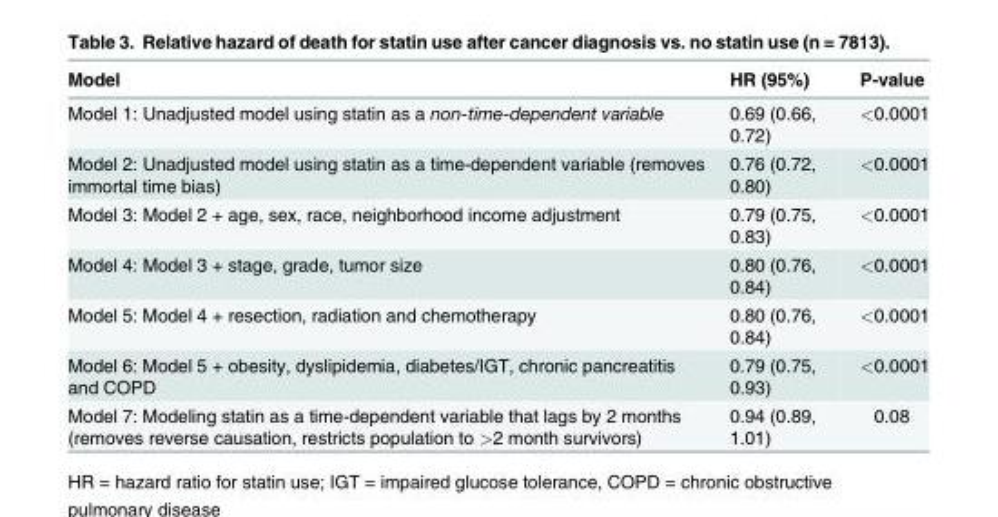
<table><thead><tr><td>Model</td><td>HR (95%)</td><td>P-value</td></tr></thead><tbody><tr><td>Model 1: Unadjusted model using statin as a non-time-dependent variable</td><td>0.69 (0.66, 0.72)</td><td>&lt;0.0001</td></tr><tr><td>Model 2: Unadjusted model using statin as a time-dependent variable (removes immortal time bias)</td><td>0.76 (0.72, 0.80)</td><td>&lt;0.0001</td></tr><tr><td>Model 3: Model 2 + age, sex, race, neighborhood income adjustment</td><td>0.79 (0.75, 0.83)</td><td>&lt;0.0001</td></tr><tr><td>Model 4: Model 3 + stage, grade, tumor size</td><td>0.80 (0.76, 0.84)</td><td>&lt;0.0001</td></tr><tr><td>Model 5: Model 4 + resection, radiation and chemotherapy</td><td>0.80 (0.76, 0.84)</td><td>&lt;0.0001</td></tr><tr><td>Model 6: Model 5 + obesity, dyslipidemia, diabetes/IGT, chronic pancreatitis and COPD</td><td>0.79 (0.75, 0.93)</td><td>&lt;0.0001</td></tr><tr><td>Model 7: Modeling statin as a time-dependent variable that lags by 2 months (removes reverse causation, restricts population to &gt;2 month survivors)</td><td>0.94 (0.89, 1.01)</td><td>0.08</td></tr></tbody></table>